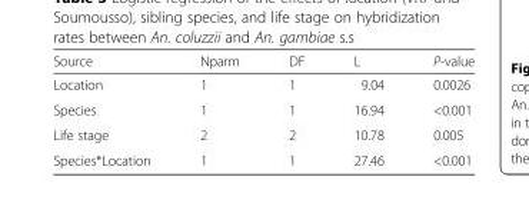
<table><thead><tr><td>Source</td><td>Nparm</td><td>DF</td><td>L</td><td>P-value</td></tr></thead><tbody><tr><td>Location</td><td>1</td><td>1</td><td>9.04</td><td>0.0026</td></tr><tr><td>Species</td><td>1</td><td>1</td><td>16.94</td><td>&lt;0.001</td></tr><tr><td>Life stage</td><td>2</td><td>2</td><td>10.78</td><td>0.005</td></tr><tr><td>Species*Location</td><td>1</td><td>1</td><td>27.46</td><td>&lt;0.001</td></tr></tbody></table>